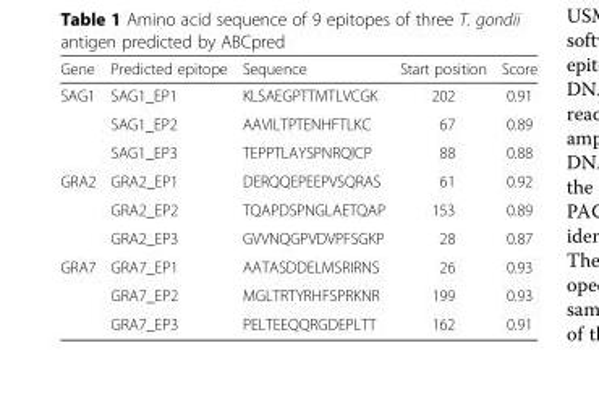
<table><thead><tr><td>Gene</td><td>Predicted epitope</td><td>Sequence</td><td>Start position</td><td>Score</td></tr></thead><tbody><tr><td rowspan="3">SAG1</td><td>SAG1_EP1</td><td>KLSAEGPTTMTLVCGK</td><td>202</td><td>0.91</td></tr><tr><td>SAG1_EP2</td><td>AAVILTPTENHFTLKC</td><td>67</td><td>0.89</td></tr><tr><td>SAG1_EP3</td><td>TEPPTLAYSPNRQICP</td><td>88</td><td>0.88</td></tr><tr><td rowspan="3">GRA2</td><td>GRA2_EP1</td><td>DERQQEPEEPVSQRAS</td><td>61</td><td>0.92</td></tr><tr><td>GRA2_EP2</td><td>TQAPDSPNGLAETQAP</td><td>153</td><td>0.89</td></tr><tr><td>GRA2_EP3</td><td>GVVNQGPVDVPFSGKP</td><td>28</td><td>0.87</td></tr><tr><td rowspan="3">GRA7</td><td>GRA7_EP1</td><td>AATASDDELMSRIRNS</td><td>26</td><td>0.93</td></tr><tr><td>GRA7_EP2</td><td>MGLTRTYRHFSPRKNR</td><td>199</td><td>0.93</td></tr><tr><td>GRA7_EP3</td><td>PELTEEQQRGDEPLTT</td><td>162</td><td>0.91</td></tr></tbody></table>